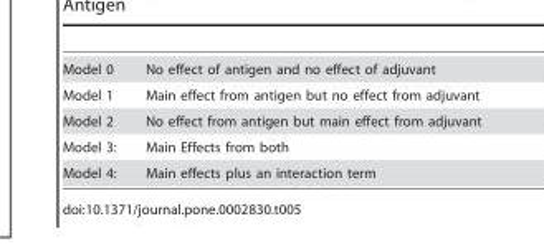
<table><tbody><tr><td>Model 0</td><td>No effect of antigen and no effect of adjuvant</td></tr><tr><td>Model 1</td><td>Main effect from antigen but no effect from adjuvant</td></tr><tr><td>Model 2</td><td>No effect from antigen but main effect from adjuvant</td></tr><tr><td>Model 3:</td><td>Main Effects from both</td></tr><tr><td>Model 4:</td><td>Main effects plus an interaction term</td></tr></tbody></table>